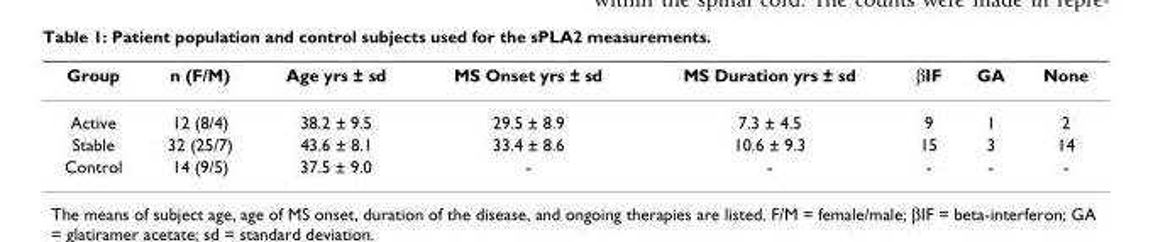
<table><thead><tr><td>Group</td><td>n (F/M)</td><td>Age yrs ± sd</td><td>MS Onset yrs ± sd</td><td>MS Duration yrs ± sd</td><td>βIF</td><td>GA</td><td>None</td></tr></thead><tbody><tr><td>Active</td><td>12 (8/4)</td><td>38.2 ± 9.5</td><td>29.5 ± 8.9</td><td>7.3 ± 4.5</td><td>9</td><td>1</td><td>2</td></tr><tr><td>Stable</td><td>32 (25/7)</td><td>43.6 ± 8.1</td><td>33.4 ± 8.6</td><td>10.6 ± 9.3</td><td>15</td><td>3</td><td>14</td></tr><tr><td>Control</td><td>14 (9/5)</td><td>37.5 ± 9.0</td><td>-</td><td>-</td><td>-</td><td>-</td><td>-</td></tr></tbody></table>